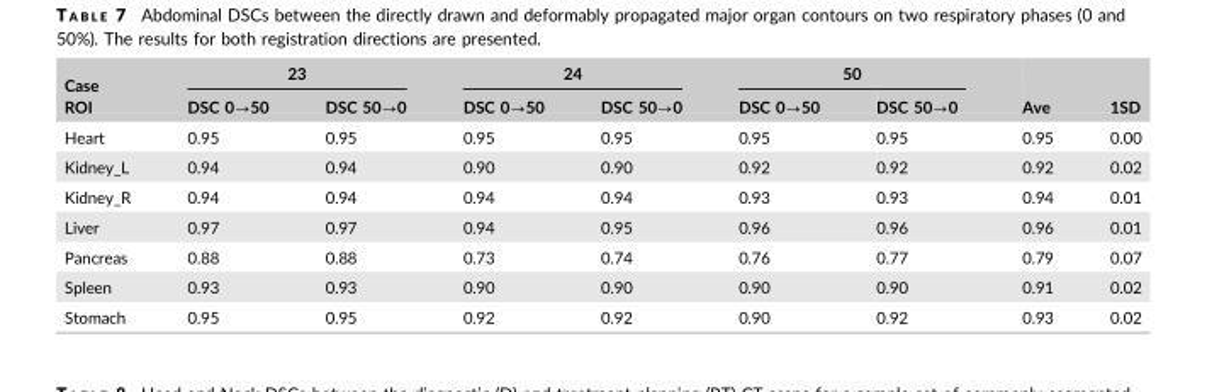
<table><thead><tr><td rowspan="2">Case ROI</td><td colspan="2">23</td><td colspan="2">24</td><td colspan="2">50</td><td rowspan="2">Ave</td><td rowspan="2">1SD</td></tr><tr><td>DSC 0→50</td><td>DSC 50→0</td><td>DSC 0→50</td><td>DSC 50→0</td><td>DSC 0→50</td><td>DSC 50→0</td></tr></thead><tbody><tr><td>Heart</td><td>0.95</td><td>0.95</td><td>0.95</td><td>0.95</td><td>0.95</td><td>0.95</td><td>0.95</td><td>0.00</td></tr><tr><td>Kidney_L</td><td>0.94</td><td>0.94</td><td>0.90</td><td>0.90</td><td>0.92</td><td>0.92</td><td>0.92</td><td>0.02</td></tr><tr><td>Kidney_R</td><td>0.94</td><td>0.94</td><td>0.94</td><td>0.94</td><td>0.93</td><td>0.93</td><td>0.94</td><td>0.01</td></tr><tr><td>Liver</td><td>0.97</td><td>0.97</td><td>0.94</td><td>0.95</td><td>0.96</td><td>0.96</td><td>0.96</td><td>0.01</td></tr><tr><td>Pancreas</td><td>0.88</td><td>0.88</td><td>0.73</td><td>0.74</td><td>0.76</td><td>0.77</td><td>0.79</td><td>0.07</td></tr><tr><td>Spleen</td><td>0.93</td><td>0.93</td><td>0.90</td><td>0.90</td><td>0.90</td><td>0.90</td><td>0.91</td><td>0.02</td></tr><tr><td>Stomach</td><td>0.95</td><td>0.95</td><td>0.92</td><td>0.92</td><td>0.90</td><td>0.92</td><td>0.93</td><td>0.02</td></tr></tbody></table>